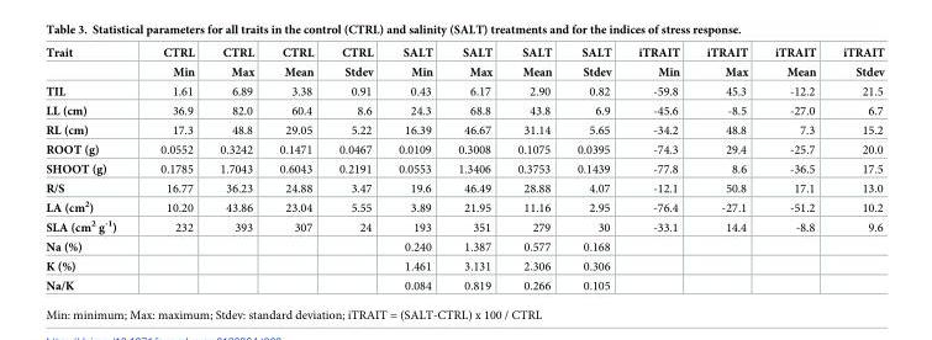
<table><thead><tr><td rowspan="2">Trait</td><td rowspan="2">CTRL Min</td><td rowspan="2">CTRL Max</td><td rowspan="2">CTRL Mean</td><td rowspan="2">CTRL Stdev</td><td rowspan="2">SALT Min</td><td rowspan="2">SALT Max</td><td rowspan="2">SALT Mean</td><td rowspan="2">SALT Stdev</td><td rowspan="2">iTRAIT Min</td><td rowspan="2">iTRAIT Max</td><td rowspan="2">iTRAIT Mean</td><td rowspan="2">iTRAIT Stdev</td></tr><tr></tr></thead><tbody><tr><td>TIL</td><td>1.61</td><td>6.89</td><td>3.38</td><td>0.91</td><td>0.43</td><td>6.17</td><td>2.90</td><td>0.82</td><td>-59.8</td><td>45.3</td><td>-12.2</td><td>21.5</td></tr><tr><td>LL (cm)</td><td>36.9</td><td>82.0</td><td>60.4</td><td>8.6</td><td>24.3</td><td>68.8</td><td>43.8</td><td>6.9</td><td>-45.6</td><td>-8.5</td><td>-27.0</td><td>6.7</td></tr><tr><td>RL (cm)</td><td>17.3</td><td>48.8</td><td>29.05</td><td>5.22</td><td>16.39</td><td>46.67</td><td>31.14</td><td>5.65</td><td>-34.2</td><td>48.8</td><td>7.3</td><td>15.2</td></tr><tr><td>ROOT (g)</td><td>0.0552</td><td>0.3242</td><td>0.1471</td><td>0.0467</td><td>0.0109</td><td>0.3008</td><td>0.1075</td><td>0.0395</td><td>-74.3</td><td>29.4</td><td>-25.7</td><td>20.0</td></tr><tr><td>SHOOT (g)</td><td>0.1785</td><td>1.7043</td><td>0.6043</td><td>0.2191</td><td>0.0553</td><td>1.3406</td><td>0.3753</td><td>0.1439</td><td>-77.8</td><td>8.6</td><td>-36.5</td><td>17.5</td></tr><tr><td>R/S</td><td>16.77</td><td>36.23</td><td>24.88</td><td>3.47</td><td>19.6</td><td>46.49</td><td>28.88</td><td>4.07</td><td>-12.1</td><td>50.8</td><td>17.1</td><td>13.0</td></tr><tr><td>LA (cm<sup>2</sup>)</td><td>10.20</td><td>43.86</td><td>23.04</td><td>5.55</td><td>3.89</td><td>21.95</td><td>11.16</td><td>2.95</td><td>-76.4</td><td>-27.1</td><td>-51.2</td><td>10.2</td></tr><tr><td>SLA (cm<sup>2</sup> g<sup>-1</sup>)</td><td>232</td><td>393</td><td>307</td><td>24</td><td>193</td><td>351</td><td>279</td><td>30</td><td>-33.1</td><td>14.4</td><td>-8.8</td><td>9.6</td></tr><tr><td>Na (%)</td><td></td><td></td><td></td><td></td><td>0.240</td><td>1.387</td><td>0.577</td><td>0.168</td><td></td><td></td><td></td><td></td></tr><tr><td>K (%)</td><td></td><td></td><td></td><td></td><td>1.461</td><td>3.131</td><td>2.306</td><td>0.306</td><td></td><td></td><td></td><td></td></tr><tr><td>Na/K</td><td></td><td></td><td></td><td></td><td>0.084</td><td>0.819</td><td>0.266</td><td>0.105</td><td></td><td></td><td></td><td></td></tr></tbody></table>